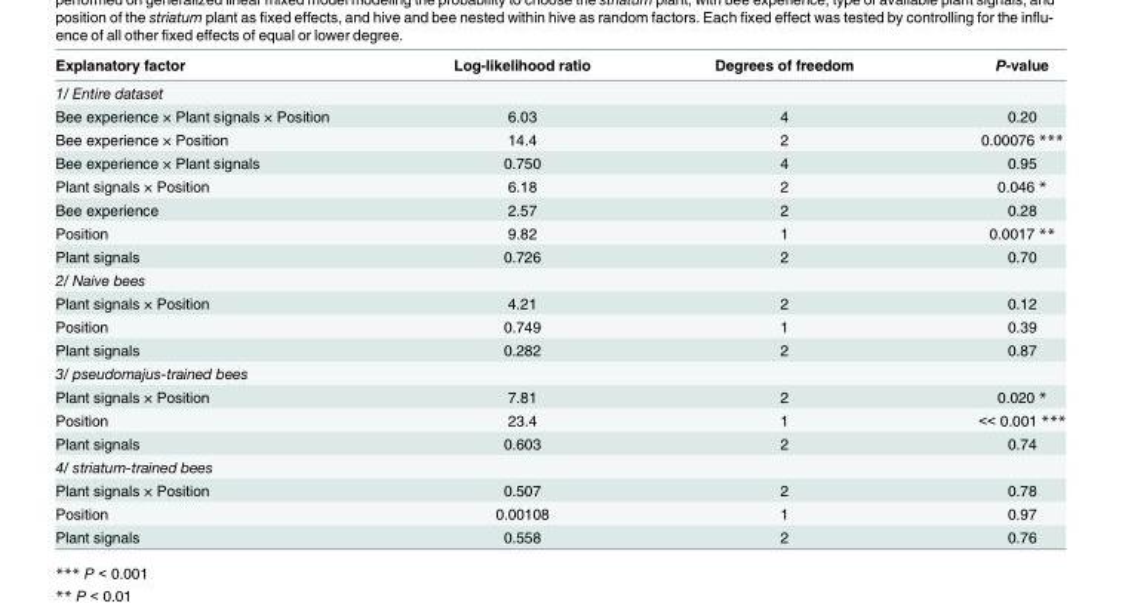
<table><thead><tr><td>Explanatory factor</td><td>Log-likelihood ratio</td><td>Degrees of freedom</td><td>P-value</td></tr></thead><tbody><tr><td colspan="4">1/ Entire dataset</td></tr><tr><td>Bee experience × Plant signals × Position</td><td>6.03</td><td>4</td><td>0.20</td></tr><tr><td>Bee experience × Position</td><td>14.4</td><td>2</td><td>0.00076 ***</td></tr><tr><td>Bee experience × Plant signals</td><td>0.750</td><td>4</td><td>0.95</td></tr><tr><td>Plant signals × Position</td><td>6.18</td><td>2</td><td>0.046 *</td></tr><tr><td>Bee experience</td><td>2.57</td><td>2</td><td>0.28</td></tr><tr><td>Position</td><td>9.82</td><td>1</td><td>0.0017 **</td></tr><tr><td>Plant signals</td><td>0.726</td><td>2</td><td>0.70</td></tr><tr><td colspan="4">2/ Naive bees</td></tr><tr><td>Plant signals × Position</td><td>4.21</td><td>2</td><td>0.12</td></tr><tr><td>Position</td><td>0.749</td><td>1</td><td>0.39</td></tr><tr><td>Plant signals</td><td>0.282</td><td>2</td><td>0.87</td></tr><tr><td colspan="4">3/ pseudomajus-trained bees</td></tr><tr><td>Plant signals × Position</td><td>7.81</td><td>2</td><td>0.020 *</td></tr><tr><td>Position</td><td>23.4</td><td>1</td><td>&lt;&lt; 0.001 ***</td></tr><tr><td>Plant signals</td><td>0.603</td><td>2</td><td>0.74</td></tr><tr><td colspan="4">4/ striatum-trained bees</td></tr><tr><td>Plant signals × Position</td><td>0.507</td><td>2</td><td>0.78</td></tr><tr><td>Position</td><td>0.00108</td><td>1</td><td>0.97</td></tr><tr><td>Plant signals</td><td>0.558</td><td>2</td><td>0.76</td></tr></tbody></table>